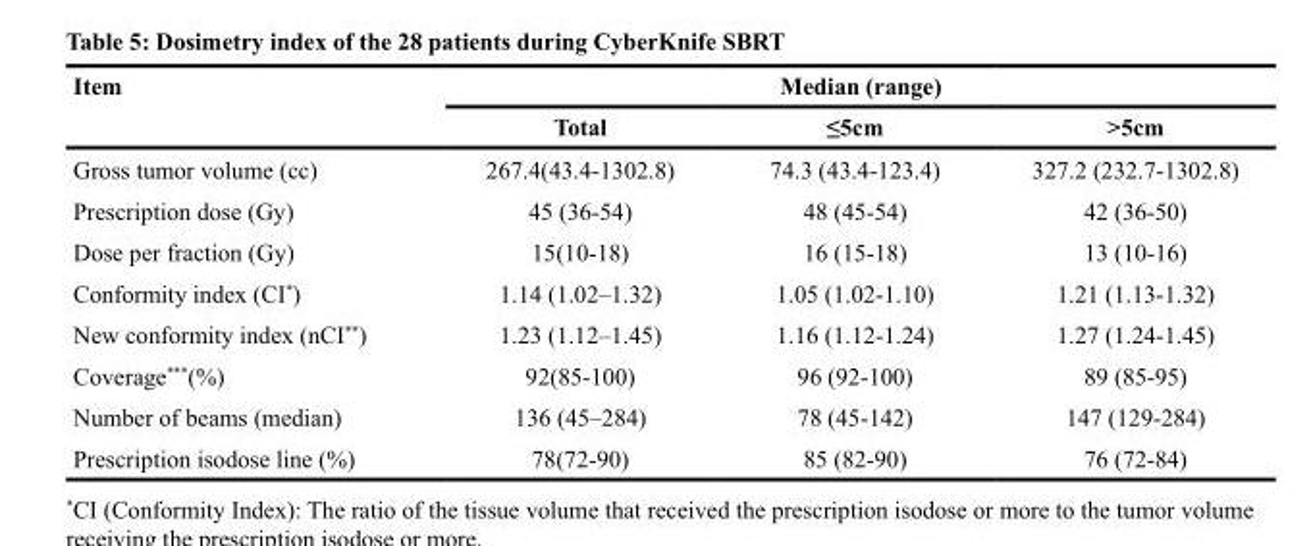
<table><thead><tr><td rowspan="2">Item</td><td colspan="3">Median (range)</td></tr><tr><td>Total</td><td>≤5cm</td><td>&gt;5cm</td></tr></thead><tbody><tr><td>Gross tumor volume (cc)</td><td>267.4(43.4-1302.8)</td><td>74.3 (43.4-123.4)</td><td>327.2 (232.7-1302.8)</td></tr><tr><td>Prescription dose (Gy)</td><td>45 (36-54)</td><td>48 (45-54)</td><td>42 (36-50)</td></tr><tr><td>Dose per fraction (Gy)</td><td>15(10-18)</td><td>16 (15-18)</td><td>13 (10-16)</td></tr><tr><td>Conformity index (CI*)</td><td>1.14 (1.02–1.32)</td><td>1.05 (1.02-1.10)</td><td>1.21 (1.13-1.32)</td></tr><tr><td>New conformity index (nCI**)</td><td>1.23 (1.12–1.45)</td><td>1.16 (1.12-1.24)</td><td>1.27 (1.24-1.45)</td></tr><tr><td>Coverage***(%)</td><td>92(85-100)</td><td>96 (92-100)</td><td>89 (85-95)</td></tr><tr><td>Number of beams (median)</td><td>136 (45–284)</td><td>78 (45-142)</td><td>147 (129-284)</td></tr><tr><td>Prescription isodose line (%)</td><td>78(72-90)</td><td>85 (82-90)</td><td>76 (72-84)</td></tr></tbody></table>